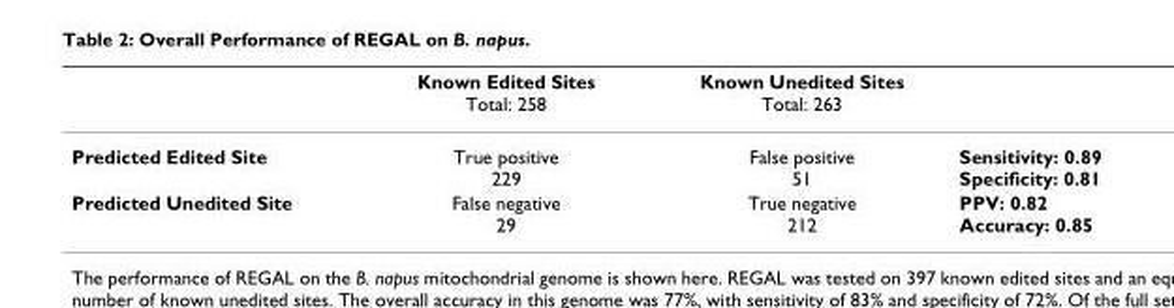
<table><thead><tr><td></td><td>Known Edited Sites Total: 258</td><td>Known Unedited Sites Total: 263</td><td></td></tr></thead><tbody><tr><td>Predicted Edited Site</td><td>True positive 229</td><td>False positive 51</td><td>Sensitivity: 0.89 Specificity: 0.81</td></tr><tr><td>Predicted Unedited Site</td><td>False negative 29</td><td>True negative 212</td><td>PPV: 0.82 Accuracy: 0.85</td></tr></tbody></table>